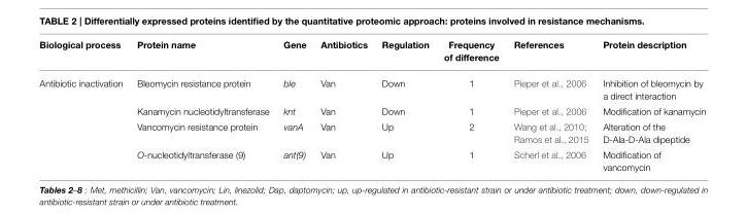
<table><thead><tr><td>Biological process</td><td>Protein name</td><td>Gene</td><td>Antibiotics</td><td>Regulation</td><td>Frequency of difference</td><td>References</td><td>Protein description</td></tr></thead><tbody><tr><td rowspan="4">Antibiotic inactivation</td><td>Bleomycin resistance protein</td><td>ble</td><td>Van</td><td>Down</td><td>1</td><td>Pieper et al., 2006</td><td>Inhibition of bleomycin by a direct interaction</td></tr><tr><td>Kanamycin nucleotidyltransferase</td><td>knt</td><td>Van</td><td>Down</td><td>1</td><td>Pieper et al., 2006</td><td>Modification of kanamycin</td></tr><tr><td>Vancomycin resistance protein</td><td>vanA</td><td>Van</td><td>Up</td><td>2</td><td>Wang et al., 2010; Ramos et al., 2015</td><td>Alteration of the D-Ala-D-Ala dipeptide</td></tr><tr><td>O-nucleotidyltransferase (9)</td><td>ant(9)</td><td>Van</td><td>Up</td><td>1</td><td>Scherl et al., 2006</td><td>Modification of vancomycin</td></tr></tbody></table>